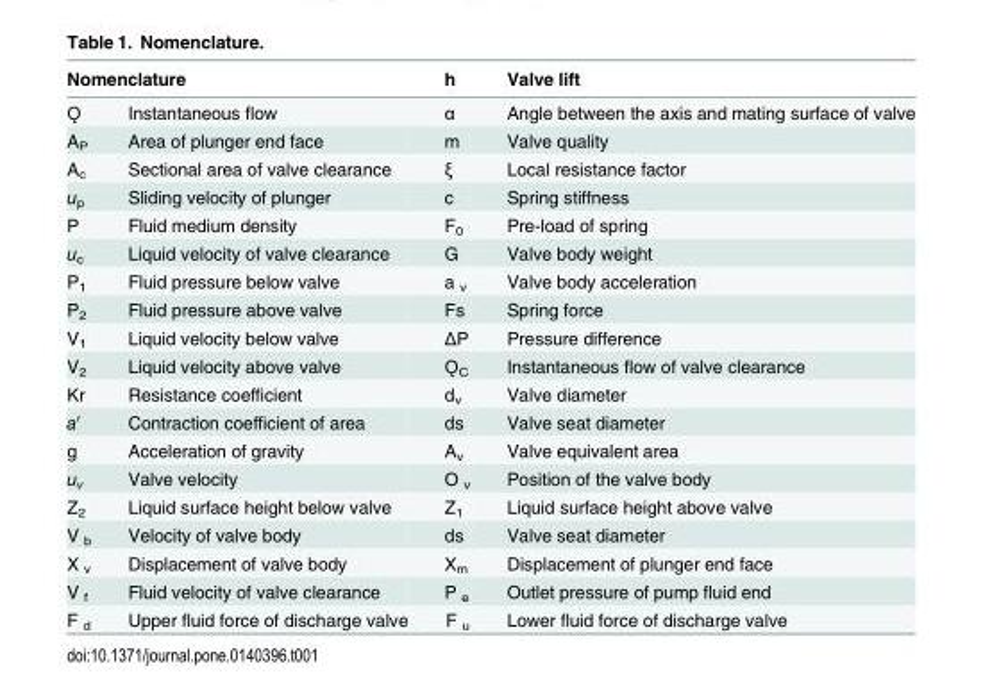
<table><thead><tr><td colspan="2">Nomenclature</td><td rowspan="2">h α</td><td rowspan="2">Valve lift Angle between the axis and mating surface of valve</td></tr><tr><td>Ǫ</td><td>Instantaneous flow</td></tr></thead><tbody><tr><td>A<sub>P</sub></td><td>Area of plunger end face</td><td>m</td><td>Valve quality</td></tr><tr><td>A<sub>c</sub></td><td>Sectional area of valve clearance</td><td>ξ</td><td>Local resistance factor</td></tr><tr><td>u<sub>p</sub></td><td>Sliding velocity of plunger</td><td>c</td><td>Spring stiffness</td></tr><tr><td>Ρ</td><td>Fluid medium density</td><td>F<sub>0</sub></td><td>Pre-load of spring</td></tr><tr><td>u<sub>c</sub></td><td>Liquid velocity of valve clearance</td><td>G</td><td>Valve body weight</td></tr><tr><td>P<sub>1</sub></td><td>Fluid pressure below valve</td><td>a <sub>v</sub></td><td>Valve body acceleration</td></tr><tr><td>P<sub>2</sub></td><td>Fluid pressure above valve</td><td>Fs</td><td>Spring force</td></tr><tr><td>V<sub>1</sub></td><td>Liquid velocity below valve</td><td>ΔP</td><td>Pressure difference</td></tr><tr><td>V<sub>2</sub></td><td>Liquid velocity above valve</td><td>Ǫ<sub>C</sub></td><td>Instantaneous flow of valve clearance</td></tr><tr><td>Kr</td><td>Resistance coefficient</td><td>d<sub>v</sub></td><td>Valve diameter</td></tr><tr><td>a′</td><td>Contraction coefficient of area</td><td>ds</td><td>Valve seat diameter</td></tr><tr><td>g</td><td>Acceleration of gravity</td><td>A<sub>v</sub></td><td>Valve equivalent area</td></tr><tr><td>u<sub>v</sub></td><td>Valve velocity</td><td>O <sub>v</sub></td><td>Position of the valve body</td></tr><tr><td>Z<sub>2</sub></td><td>Liquid surface height below valve</td><td>Z<sub>1</sub></td><td>Liquid surface height above valve</td></tr><tr><td>V <sub>b</sub></td><td>Velocity of valve body</td><td>ds</td><td>Valve seat diameter</td></tr><tr><td>X <sub>v</sub></td><td>Displacement of valve body</td><td>X<sub>m</sub></td><td>Displacement of plunger end face</td></tr><tr><td>V <sub>f</sub></td><td>Fluid velocity of valve clearance</td><td>P <sub>e</sub></td><td>Outlet pressure of pump fluid end</td></tr><tr><td>F <sub>d</sub></td><td>Upper fluid force of discharge valve</td><td>F <sub>u</sub></td><td>Lower fluid force of discharge valve</td></tr></tbody></table>